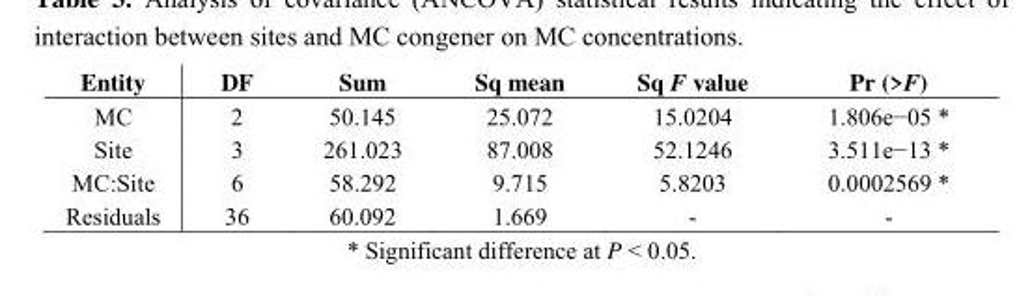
<table><thead><tr><td>Entity</td><td>DF</td><td>Sum</td><td>Sq mean</td><td>Sq F value</td><td>Pr (&gt;F)</td></tr></thead><tbody><tr><td>MC</td><td>2</td><td>50.145</td><td>25.072</td><td>15.0204</td><td>1.806e−05 *</td></tr><tr><td>Site</td><td>3</td><td>261.023</td><td>87.008</td><td>52.1246</td><td>3.511e−13 *</td></tr><tr><td>MC:Site</td><td>6</td><td>58.292</td><td>9.715</td><td>5.8203</td><td>0.0002569 *</td></tr><tr><td>Residuals</td><td>36</td><td>60.092</td><td>1.669</td><td>-</td><td>-</td></tr></tbody></table>